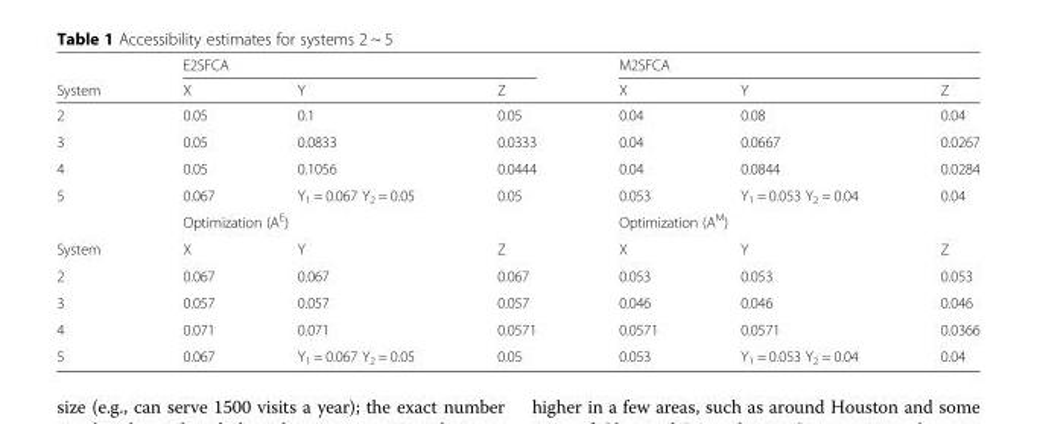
<table><thead><tr><td rowspan="2">System</td><td colspan="3">E2SFCA</td><td colspan="3">M2SFCA</td></tr><tr><td>X</td><td>Y</td><td>Z</td><td>X</td><td>Y</td><td>Z</td></tr></thead><tbody><tr><td>2</td><td>0.05</td><td>0.1</td><td>0.05</td><td>0.04</td><td>0.08</td><td>0.04</td></tr><tr><td>3</td><td>0.05</td><td>0.0833</td><td>0.0333</td><td>0.04</td><td>0.0667</td><td>0.0267</td></tr><tr><td>4</td><td>0.05</td><td>0.1056</td><td>0.0444</td><td>0.04</td><td>0.0844</td><td>0.0284</td></tr><tr><td rowspan="2">5</td><td>0.067</td><td>Y<sub>1</sub> = 0.067 Y<sub>2</sub> = 0.05</td><td>0.05</td><td>0.053</td><td>Y<sub>1</sub> = 0.053 Y<sub>2</sub> = 0.04</td><td>0.04</td></tr><tr><td colspan="3">Optimization (A<sup>E</sup>)</td><td colspan="3">Optimization (A<sup>M</sup>)</td></tr><tr><td>System</td><td>X</td><td>Y</td><td>Z</td><td>X</td><td>Y</td><td>Z</td></tr><tr><td>2</td><td>0.067</td><td>0.067</td><td>0.067</td><td>0.053</td><td>0.053</td><td>0.053</td></tr><tr><td>3</td><td>0.057</td><td>0.057</td><td>0.057</td><td>0.046</td><td>0.046</td><td>0.046</td></tr><tr><td>4</td><td>0.071</td><td>0.071</td><td>0.0571</td><td>0.0571</td><td>0.0571</td><td>0.0366</td></tr><tr><td>5</td><td>0.067</td><td>Y<sub>1</sub> = 0.067 Y<sub>2</sub> = 0.05</td><td>0.05</td><td>0.053</td><td>Y<sub>1</sub> = 0.053 Y<sub>2</sub> = 0.04</td><td>0.04</td></tr></tbody></table>